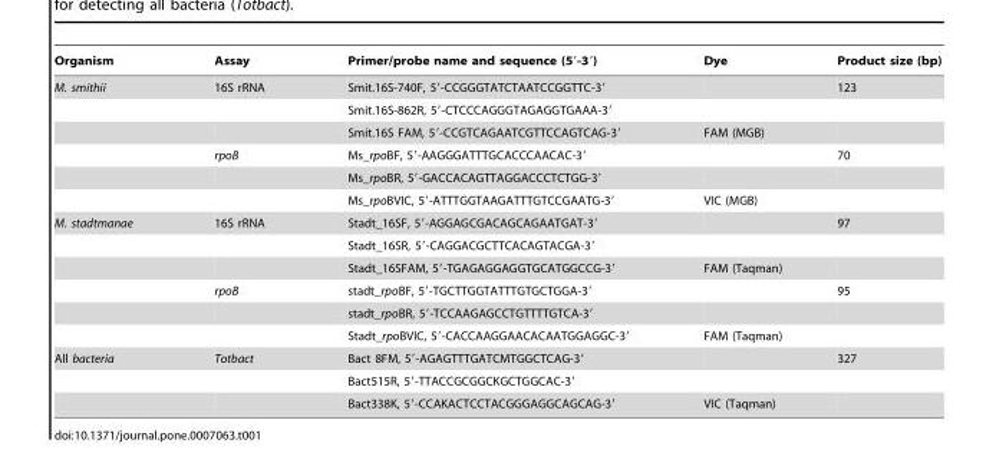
<table><thead><tr><td>Organism</td><td>Assay</td><td>Primer/probe name and sequence (5′-3′)</td><td>Dye</td><td>Product size (bp)</td></tr></thead><tbody><tr><td rowspan="6">M. smithii</td><td>16S rRNA</td><td>Smit.16S-740F, 5′-CCGGGTATCTAATCCGGTTC-3′</td><td></td><td>123</td></tr><tr><td></td><td>Smit.16S-862R, 5′-CTCCCAGGGTAGAGGTGAAA-3′</td><td></td><td></td></tr><tr><td></td><td>Smit.16S FAM, 5′-CCGTCAGAATCGTTCCAGTCAG-3′</td><td>FAM (MGB)</td><td></td></tr><tr><td>rpoB</td><td>Ms_rpoBF, 5′-AAGGGATTTGCACCCAACAC-3′</td><td></td><td>70</td></tr><tr><td></td><td>Ms_rpoBR, 5′-GACCACAGTTAGGACCCTCTGG-3′</td><td></td><td></td></tr><tr><td></td><td>Ms_rpoBVIC, 5′-ATTTGGTAAGATTTGTCCGAATG-3′</td><td>VIC (MGB)</td><td></td></tr><tr><td rowspan="6">M. stadtmanae</td><td>16S rRNA</td><td>Stadt_16SF, 5′-AGGAGCGACAGCAGAATGAT-3′</td><td></td><td>97</td></tr><tr><td></td><td>Stadt_16SR, 5′-CAGGACGCTTCACAGTACGA-3′</td><td></td><td></td></tr><tr><td></td><td>Stadt_16SFAM, 5′-TGAGAGGAGGTGCATGGCCG-3′</td><td>FAM (Taqman)</td><td></td></tr><tr><td>rpoB</td><td>stadt_rpoBF, 5′-TGCTTGGTATTTGTGCTGGA-3′</td><td></td><td>95</td></tr><tr><td></td><td>stadt_rpoBR, 5′-TCCAAGAGCCTGTTTTGTCA-3′</td><td></td><td></td></tr><tr><td></td><td>Stadt_rpoBVIC, 5′-CACCAAGGAACACAATGGAGGC-3′</td><td>FAM (Taqman)</td><td></td></tr><tr><td rowspan="3">All bacteria</td><td>Totbact</td><td>Bact 8FM, 5′-AGAGTTTGATCMTGGCTCAG-3′</td><td></td><td>327</td></tr><tr><td></td><td>Bact515R, 5′-TTACCGCGGCKGCTGGCAC-3′</td><td></td><td></td></tr><tr><td></td><td>Bact338K, 5′-CCAKACTCCTACGGGAGGCAGCAG-3′</td><td>VIC (Taqman)</td><td></td></tr></tbody></table>